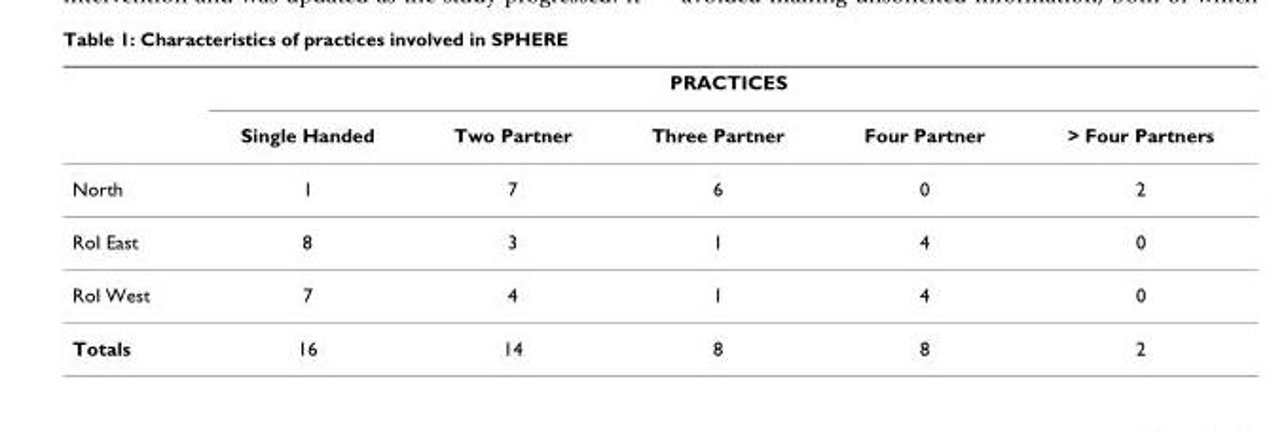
<table><thead><tr><td rowspan="2"></td><td colspan="5">PRACTICES</td></tr><tr><td>Single Handed</td><td>Two Partner</td><td>Three Partner</td><td>Four Partner</td><td>&gt; Four Partners</td></tr></thead><tbody><tr><td>North</td><td>1</td><td>7</td><td>6</td><td>0</td><td>2</td></tr><tr><td>RoI East</td><td>8</td><td>3</td><td>1</td><td>4</td><td>0</td></tr><tr><td>RoI West</td><td>7</td><td>4</td><td>1</td><td>4</td><td>0</td></tr><tr><td>Totals</td><td>16</td><td>14</td><td>8</td><td>8</td><td>2</td></tr></tbody></table>